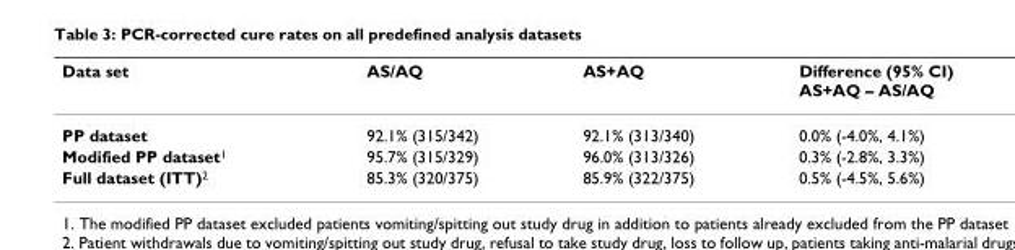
<table><thead><tr><td>Data set</td><td>AS/AQ</td><td>AS+AQ</td><td>Difference (95% CI) AS+AQ – AS/AQ</td></tr></thead><tbody><tr><td>PP dataset</td><td>92.1% (315/342)</td><td>92.1% (313/340)</td><td>0.0% (-4.0%, 4.1%)</td></tr><tr><td>Modified PP dataset<sup>1</sup></td><td>95.7% (315/329)</td><td>96.0% (313/326)</td><td>0.3% (-2.8%, 3.3%)</td></tr><tr><td>Full dataset (ITT)<sup>2</sup></td><td>85.3% (320/375)</td><td>85.9% (322/375)</td><td>0.5% (-4.5%, 5.6%)</td></tr></tbody></table>